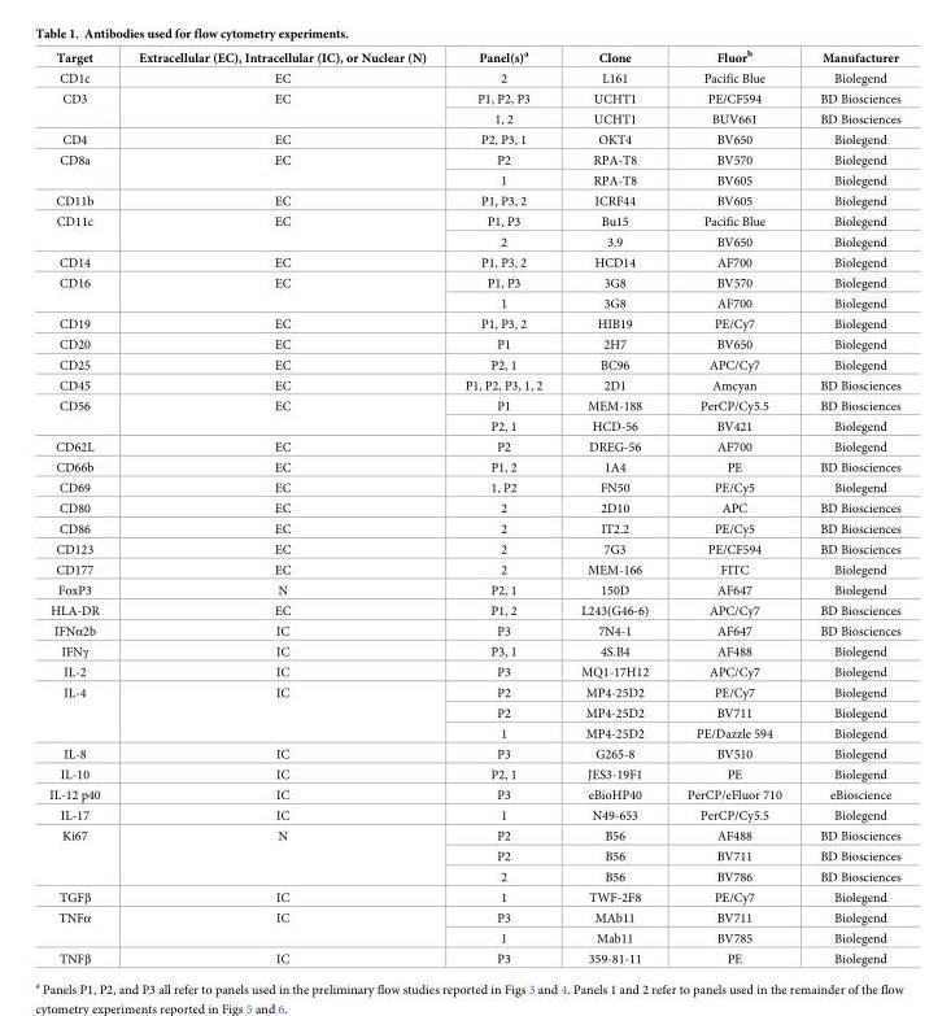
<table><thead><tr><td>Target</td><td>Extracellular (EC), Intracellular (IC), or Nuclear (N)</td><td>Panel(s)<sup>a</sup></td><td>Clone</td><td>Fluor<sup>b</sup></td><td>Manufacturer</td></tr></thead><tbody><tr><td>CD1c</td><td>EC</td><td>2</td><td>L161</td><td>Pacific Blue</td><td>Biolegend</td></tr><tr><td rowspan="2">CD3</td><td rowspan="2">EC</td><td>P1, P2, P3</td><td>UCHT1</td><td>PE/CF594</td><td>BD Biosciences</td></tr><tr><td>1, 2</td><td>UCHT1</td><td>BUV661</td><td>BD Biosciences</td></tr><tr><td>CD4</td><td>EC</td><td>P2, P3, 1</td><td>OKT4</td><td>BV650</td><td>Biolegend</td></tr><tr><td rowspan="2">CD8a</td><td rowspan="2">EC</td><td>P2</td><td>RPA-T8</td><td>BV570</td><td>Biolegend</td></tr><tr><td>1</td><td>RPA-T8</td><td>BV605</td><td>Biolegend</td></tr><tr><td>CD11b</td><td>EC</td><td>P1, P3, 2</td><td>ICRF44</td><td>BV605</td><td>Biolegend</td></tr><tr><td rowspan="2">CD11c</td><td rowspan="2">EC</td><td>P1, P3</td><td>Bu15</td><td>Pacific Blue</td><td>Biolegend</td></tr><tr><td>2</td><td>3.9</td><td>BV650</td><td>Biolegend</td></tr><tr><td>CD14</td><td>EC</td><td>P1, P3, 2</td><td>HCD14</td><td>AF700</td><td>Biolegend</td></tr><tr><td rowspan="2">CD16</td><td rowspan="2">EC</td><td>P1, P3</td><td>3G8</td><td>BV570</td><td>Biolegend</td></tr><tr><td>1</td><td>3G8</td><td>AF700</td><td>Biolegend</td></tr><tr><td>CD19</td><td>EC</td><td>P1, P3, 2</td><td>HIB19</td><td>PE/Cy7</td><td>Biolegend</td></tr><tr><td>CD20</td><td>EC</td><td>P1</td><td>2H7</td><td>BV650</td><td>Biolegend</td></tr><tr><td>CD25</td><td>EC</td><td>P2, 1</td><td>BC96</td><td>APC/Cy7</td><td>Biolegend</td></tr><tr><td>CD45</td><td>EC</td><td>P1, P2, P3, 1, 2</td><td>2D1</td><td>Amcyan</td><td>BD Biosciences</td></tr><tr><td rowspan="2">CD56</td><td rowspan="2">EC</td><td>P1</td><td>MEM-188</td><td>PerCP/Cy5.5</td><td>BD Biosciences</td></tr><tr><td>P2, 1</td><td>HCD-56</td><td>BV421</td><td>Biolegend</td></tr><tr><td>CD62L</td><td>EC</td><td>P2</td><td>DREG-56</td><td>AF700</td><td>Biolegend</td></tr><tr><td>CD66b</td><td>EC</td><td>P1, 2</td><td>1A4</td><td>PE</td><td>BD Biosciences</td></tr><tr><td>CD69</td><td>EC</td><td>1, P2</td><td>FN50</td><td>PE/Cy5</td><td>Biolegend</td></tr><tr><td>CD80</td><td>EC</td><td>2</td><td>2D10</td><td>APC</td><td>BD Biosciences</td></tr><tr><td>CD86</td><td>EC</td><td>2</td><td>IT2.2</td><td>PE/Cy5</td><td>BD Biosciences</td></tr><tr><td>CD123</td><td>EC</td><td>2</td><td>7G3</td><td>PE/CF594</td><td>BD Biosciences</td></tr><tr><td>CD177</td><td>EC</td><td>2</td><td>MEM-166</td><td>FITC</td><td>Biolegend</td></tr><tr><td>FoxP3</td><td>N</td><td>P2, 1</td><td>150D</td><td>AF647</td><td>Biolegend</td></tr><tr><td>HLA-DR</td><td>EC</td><td>P1, 2</td><td>L243(G46-6)</td><td>APC/Cy7</td><td>BD Biosciences</td></tr><tr><td>IFNα2b</td><td>IC</td><td>P3</td><td>7N4-1</td><td>AF647</td><td>BD Biosciences</td></tr><tr><td>IFNγ</td><td>IC</td><td>P3, 1</td><td>4S.B4</td><td>AF488</td><td>Biolegend</td></tr><tr><td>IL-2</td><td>IC</td><td>P3</td><td>MQ1-17H12</td><td>APC/Cy7</td><td>Biolegend</td></tr><tr><td rowspan="3">IL-4</td><td rowspan="3">IC</td><td>P2</td><td>MP4-25D2</td><td>PE/Cy7</td><td>Biolegend</td></tr><tr><td>P2</td><td>MP4-25D2</td><td>BV711</td><td>Biolegend</td></tr><tr><td>1</td><td>MP4-25D2</td><td>PE/Dazzle 594</td><td>Biolegend</td></tr><tr><td>IL-8</td><td>IC</td><td>P3</td><td>G265-8</td><td>BV510</td><td>Biolegend</td></tr><tr><td>IL-10</td><td>IC</td><td>P2, 1</td><td>JES3-19F1</td><td>PE</td><td>Biolegend</td></tr><tr><td>IL-12 p40</td><td>IC</td><td>P3</td><td>eBioHP40</td><td>PerCP/eFluor 710</td><td>eBioscience</td></tr><tr><td>IL-17</td><td>IC</td><td>1</td><td>N49-653</td><td>PerCP/Cy5.5</td><td>Biolegend</td></tr><tr><td rowspan="3">Ki67</td><td rowspan="3">N</td><td>P2</td><td>B56</td><td>AF488</td><td>BD Biosciences</td></tr><tr><td>P2</td><td>B56</td><td>BV711</td><td>BD Biosciences</td></tr><tr><td>2</td><td>B56</td><td>BV786</td><td>BD Biosciences</td></tr><tr><td>TGFβ</td><td>IC</td><td>1</td><td>TWF-2F8</td><td>PE/Cy7</td><td>Biolegend</td></tr><tr><td rowspan="2">TNFα</td><td rowspan="2">IC</td><td>P3</td><td>MAb11</td><td>BV711</td><td>Biolegend</td></tr><tr><td>1</td><td>Mab11</td><td>BV785</td><td>Biolegend</td></tr><tr><td>TNFβ</td><td>IC</td><td>P3</td><td>359-81-11</td><td>PE</td><td>Biolegend</td></tr></tbody></table>